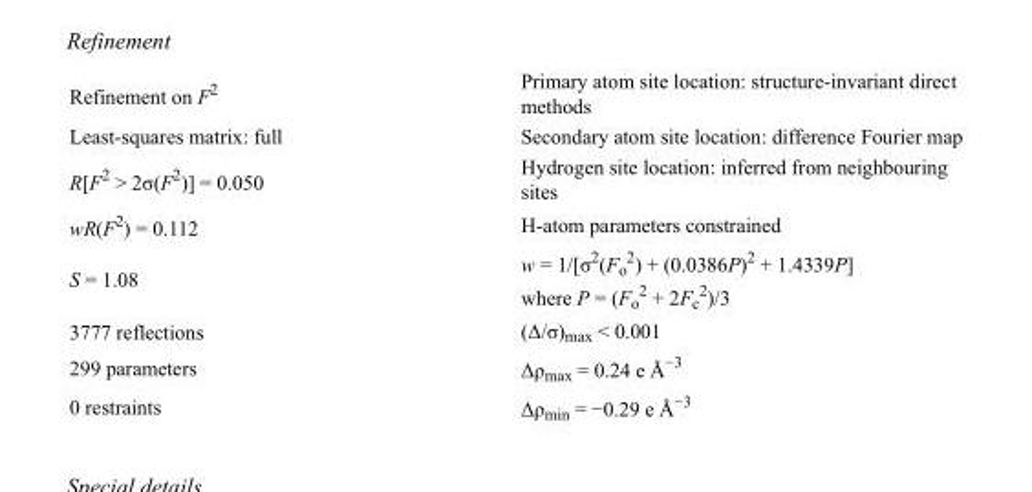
<table><tbody><tr><td>Refinement on F<sup>2</sup></td><td>Primary atom site location: structure-invariant direct methods</td></tr><tr><td>Least-squares matrix: full</td><td>Secondary atom site location: difference Fourier map</td></tr><tr><td>R[F<sup>2</sup> &gt; 2σ(F<sup>2</sup>)] = 0.050</td><td>Hydrogen site location: inferred from neighbouring sites</td></tr><tr><td>wR(F<sup>2</sup>) = 0.112</td><td>H-atom parameters constrained</td></tr><tr><td>S = 1.08</td><td>w = 1/[σ<sup>2</sup>(F<sub>o</sub> <sup>2</sup>) + (0.0386P)<sup>2</sup> + 1.4339P] where P = (F<sub>o</sub> <sup>2</sup> + 2F<sub>c</sub> <sup>2</sup>)/3</td></tr><tr><td>3777 reflections</td><td>(Δ/σ)<sub>max</sub> &lt; 0.001</td></tr><tr><td>299 parameters</td><td>Δρ<sub>max</sub> = 0.24 e Å<sup>−3</sup></td></tr><tr><td>0 restraints</td><td>Δρ<sub>min</sub> = −0.29 e Å<sup>−3</sup></td></tr></tbody></table>